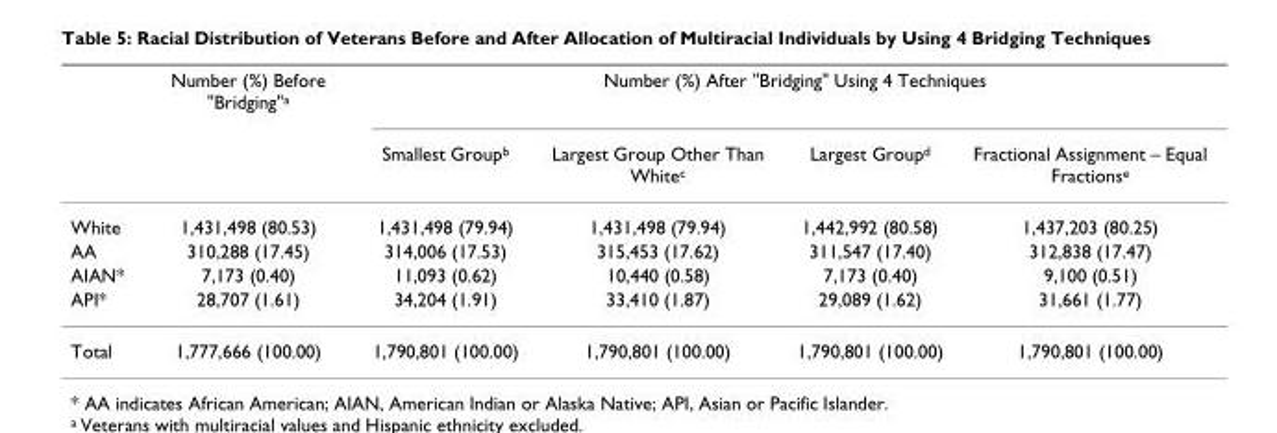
<table><thead><tr><td rowspan="2"></td><td rowspan="2">Number (%) Before &quot;Bridging&quot;<sup>a</sup></td><td colspan="4">Number (%) After &quot;Bridging&quot; Using 4 Techniques</td></tr><tr><td>Smallest Group<sup>b</sup></td><td>Largest Group Other Than White<sup>c</sup></td><td>Largest Group<sup>d</sup></td><td>Fractional Assignment – Equal Fractions<sup>e</sup></td></tr></thead><tbody><tr><td>White</td><td>1,431,498 (80.53)</td><td>1,431,498 (79.94)</td><td>1,431,498 (79.94)</td><td>1,442,992 (80.58)</td><td>1,437,203 (80.25)</td></tr><tr><td>AA</td><td>310,288 (17.45)</td><td>314,006 (17.53)</td><td>315,453 (17.62)</td><td>311,547 (17.40)</td><td>312,838 (17.47)</td></tr><tr><td>AIAN*</td><td>7,173 (0.40)</td><td>11,093 (0.62)</td><td>10,440 (0.58)</td><td>7,173 (0.40)</td><td>9,100 (0.51)</td></tr><tr><td>API*</td><td>28,707 (1.61)</td><td>34,204 (1.91)</td><td>33,410 (1.87)</td><td>29,089 (1.62)</td><td>31,661 (1.77)</td></tr><tr><td>Total</td><td>1,777,666 (100.00)</td><td>1,790,801 (100.00)</td><td>1,790,801 (100.00)</td><td>1,790,801 (100.00)</td><td>1,790,801 (100.00)</td></tr></tbody></table>